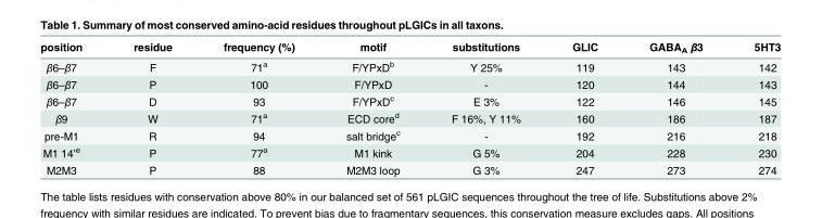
<table><thead><tr><td>position</td><td>residue</td><td>frequency (%)</td><td>motif</td><td>substitutions</td><td>GLIC</td><td>GABA<sub>A</sub> β3</td><td>5HT3</td></tr></thead><tbody><tr><td>β6–β7</td><td>F</td><td>71<sup>a</sup></td><td>F/YPxD<sup>b</sup></td><td>Y 25%</td><td>119</td><td>143</td><td>142</td></tr><tr><td>β6–β7</td><td>P</td><td>100</td><td>F/YPxD</td><td>-</td><td>120</td><td>144</td><td>143</td></tr><tr><td>β6–β7</td><td>D</td><td>93</td><td>F/YPxD<sup>c</sup></td><td>E 3%</td><td>122</td><td>146</td><td>145</td></tr><tr><td>β9</td><td>W</td><td>71<sup>a</sup></td><td>ECD core<sup>d</sup></td><td>F 16%, Y 11%</td><td>160</td><td>186</td><td>187</td></tr><tr><td>pre-M1</td><td>R</td><td>94</td><td>salt bridge<sup>c</sup></td><td>-</td><td>192</td><td>216</td><td>218</td></tr><tr><td>M1 14’<sup>e</sup></td><td>P</td><td>77<sup>a</sup></td><td>M1 kink</td><td>G 5%</td><td>204</td><td>228</td><td>230</td></tr><tr><td>M2M3</td><td>P</td><td>88</td><td>M2M3 loop</td><td>G 3%</td><td>247</td><td>273</td><td>274</td></tr></tbody></table>